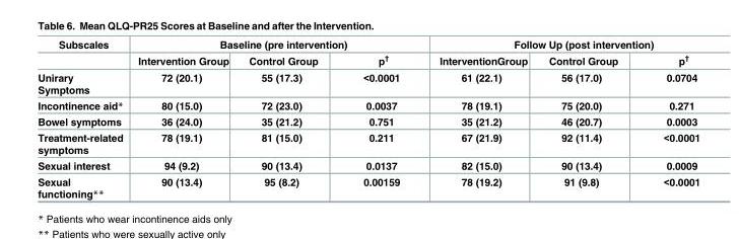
<table><thead><tr><td rowspan="2">Subscales</td><td colspan="3">Baseline (pre intervention)</td><td colspan="3">Follow Up (post intervention)</td></tr><tr><td>Intervention Group</td><td>Control Group</td><td>p<sup>†</sup></td><td>InterventionGroup</td><td>Control Group</td><td>p<sup>†</sup></td></tr></thead><tbody><tr><td>Unirary Symptoms</td><td>72 (20.1)</td><td>55 (17.3)</td><td>&lt;0.0001</td><td>61 (22.1)</td><td>56 (17.0)</td><td>0.0704</td></tr><tr><td>Incontinence aid*</td><td>80 (15.0)</td><td>72 (23.0)</td><td>0.0037</td><td>78 (19.1)</td><td>75 (20.0)</td><td>0.271</td></tr><tr><td>Bowel symptoms</td><td>36 (24.0)</td><td>35 (21.2)</td><td>0.751</td><td>35 (21.2)</td><td>46 (20.7)</td><td>0.0003</td></tr><tr><td>Treatment-related symptoms</td><td>78 (19.1)</td><td>81 (15.0)</td><td>0.211</td><td>67 (21.9)</td><td>92 (11.4)</td><td>&lt;0.0001</td></tr><tr><td>Sexual interest</td><td>94 (9.2)</td><td>90 (13.4)</td><td>0.0137</td><td>82 (15.0)</td><td>90 (13.4)</td><td>0.0009</td></tr><tr><td>Sexual functioning**</td><td>90 (13.4)</td><td>95 (8.2)</td><td>0.00159</td><td>78 (19.2)</td><td>91 (9.8)</td><td>&lt;0.0001</td></tr></tbody></table>